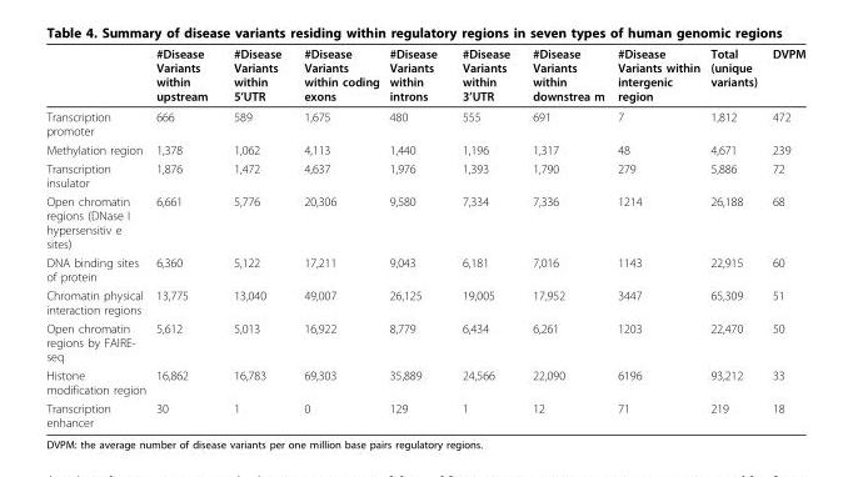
<table><thead><tr><td></td><td>#Disease Variants within upstream</td><td>#Disease Variants within 5’UTR</td><td>#Disease Variants within coding exons</td><td>#Disease Variants within introns</td><td>#Disease Variants within 3’UTR</td><td>#Disease Variants within downstrea m</td><td>#Disease Variants within intergenic region</td><td>Total (unique variants)</td><td>DVPM</td></tr></thead><tbody><tr><td>Transcription promoter</td><td>666</td><td>589</td><td>1,675</td><td>480</td><td>555</td><td>691</td><td>7</td><td>1,812</td><td>472</td></tr><tr><td>Methylation region</td><td>1,378</td><td>1,062</td><td>4,113</td><td>1,440</td><td>1,196</td><td>1,317</td><td>48</td><td>4,671</td><td>239</td></tr><tr><td>Transcription insulator</td><td>1,876</td><td>1,472</td><td>4,637</td><td>1,976</td><td>1,393</td><td>1,790</td><td>279</td><td>5,886</td><td>72</td></tr><tr><td>Open chromatin regions (DNase I hypersensitiv e sites)</td><td>6,661</td><td>5,776</td><td>20,306</td><td>9,580</td><td>7,334</td><td>7,336</td><td>1214</td><td>26,188</td><td>68</td></tr><tr><td>DNA binding sites of protein</td><td>6,360</td><td>5,122</td><td>17,211</td><td>9,043</td><td>6,181</td><td>7,016</td><td>1143</td><td>22,915</td><td>60</td></tr><tr><td>Chromatin physical interaction regions</td><td>13,775</td><td>13,040</td><td>49,007</td><td>26,125</td><td>19,005</td><td>17,952</td><td>3447</td><td>65,309</td><td>51</td></tr><tr><td>Open chromatin regions by FAIRE- seq</td><td>5,612</td><td>5,013</td><td>16,922</td><td>8,779</td><td>6,434</td><td>6,261</td><td>1203</td><td>22,470</td><td>50</td></tr><tr><td>Histone modification region</td><td>16,862</td><td>16,783</td><td>69,303</td><td>35,889</td><td>24,566</td><td>22,090</td><td>6196</td><td>93,212</td><td>33</td></tr><tr><td>Transcription enhancer</td><td>30</td><td>1</td><td>0</td><td>129</td><td>1</td><td>12</td><td>71</td><td>219</td><td>18</td></tr></tbody></table>